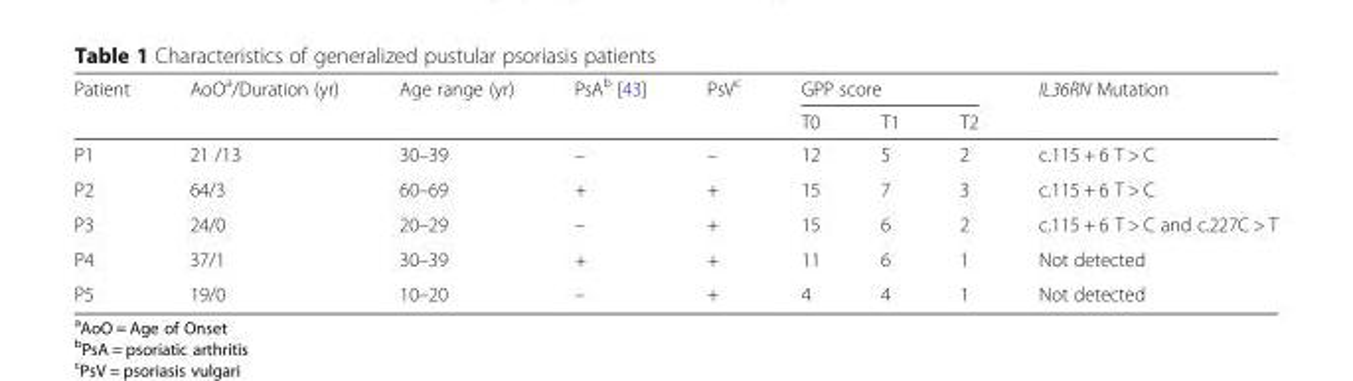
<table><thead><tr><td rowspan="2">Patient</td><td rowspan="2">AoO<sup>a</sup>/Duration (yr)</td><td rowspan="2">Age range (yr)</td><td rowspan="2">PsA<sup>b</sup> [43]</td><td rowspan="2">PsV<sup>c</sup></td><td colspan="3">GPP score</td><td rowspan="2">IL36RN Mutation</td></tr><tr><td>T0</td><td>T1</td><td>T2</td></tr></thead><tbody><tr><td>P1</td><td>21 /13</td><td>30–39</td><td>–</td><td>–</td><td>12</td><td>5</td><td>2</td><td>c.115 + 6 T &gt; C</td></tr><tr><td>P2</td><td>64/3</td><td>60–69</td><td>+</td><td>+</td><td>15</td><td>7</td><td>3</td><td>c.115 + 6 T &gt; C</td></tr><tr><td>P3</td><td>24/0</td><td>20–29</td><td>–</td><td>+</td><td>15</td><td>6</td><td>2</td><td>c.115 + 6 T &gt; C and c.227C &gt; T</td></tr><tr><td>P4</td><td>37/1</td><td>30–39</td><td>+</td><td>+</td><td>11</td><td>6</td><td>1</td><td>Not detected</td></tr><tr><td>P5</td><td>19/0</td><td>10–20</td><td>–</td><td>+</td><td>4</td><td>4</td><td>1</td><td>Not detected</td></tr></tbody></table>